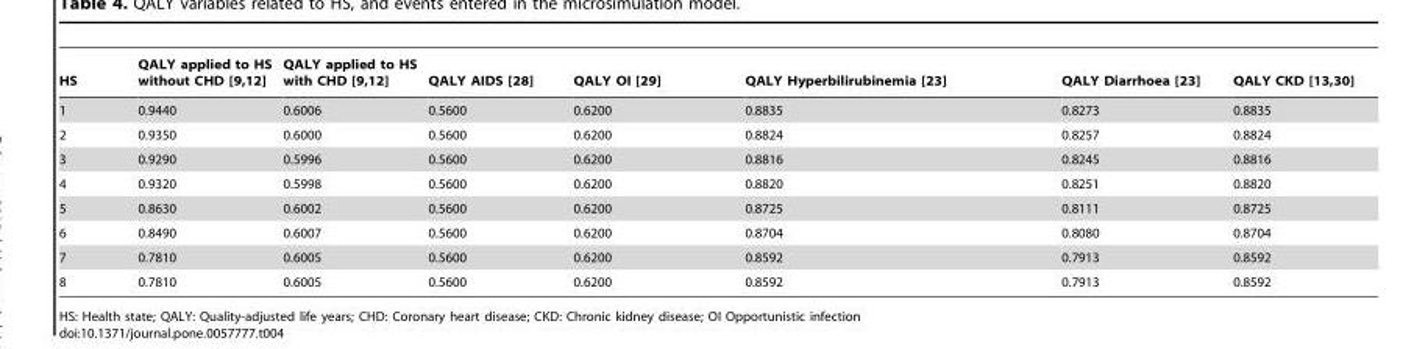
<table><thead><tr><td>HS</td><td>QALY applied to HS without CHD [9,12]</td><td>QALY applied to HS with CHD [9,12]</td><td>QALY AIDS [28]</td><td>QALY OI [29]</td><td>QALY Hyperbilirubinemia [23]</td><td>QALY Diarrhoea [23]</td><td>QALY CKD [13,30]</td></tr></thead><tbody><tr><td>1</td><td>0.9440</td><td>0.6006</td><td>0.5600</td><td>0.6200</td><td>0.8835</td><td>0.8273</td><td>0.8835</td></tr><tr><td>2</td><td>0.9350</td><td>0.6000</td><td>0.5600</td><td>0.6200</td><td>0.8824</td><td>0.8257</td><td>0.8824</td></tr><tr><td>3</td><td>0.9290</td><td>0.5996</td><td>0.5600</td><td>0.6200</td><td>0.8816</td><td>0.8245</td><td>0.8816</td></tr><tr><td>4</td><td>0.9320</td><td>0.5998</td><td>0.5600</td><td>0.6200</td><td>0.8820</td><td>0.8251</td><td>0.8820</td></tr><tr><td>5</td><td>0.8630</td><td>0.6002</td><td>0.5600</td><td>0.6200</td><td>0.8725</td><td>0.8111</td><td>0.8725</td></tr><tr><td>6</td><td>0.8490</td><td>0.6007</td><td>0.5600</td><td>0.6200</td><td>0.8704</td><td>0.8080</td><td>0.8704</td></tr><tr><td>7</td><td>0.7810</td><td>0.6005</td><td>0.5600</td><td>0.6200</td><td>0.8592</td><td>0.7913</td><td>0.8592</td></tr><tr><td>8</td><td>0.7810</td><td>0.6005</td><td>0.5600</td><td>0.6200</td><td>0.8592</td><td>0.7913</td><td>0.8592</td></tr></tbody></table>